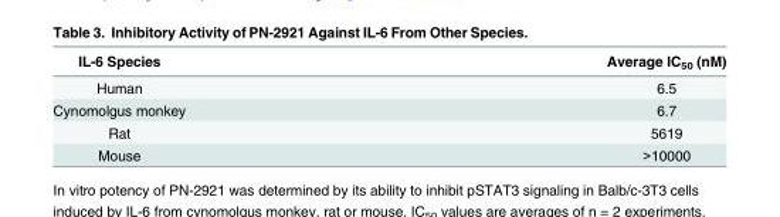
<table><thead><tr><td>IL-6 Species</td><td>Average IC<sub>50</sub> (nM)</td></tr></thead><tbody><tr><td>Human</td><td>6.5</td></tr><tr><td>Cynomolgus monkey</td><td>6.7</td></tr><tr><td>Rat</td><td>5619</td></tr><tr><td>Mouse</td><td>&gt;10000</td></tr></tbody></table>